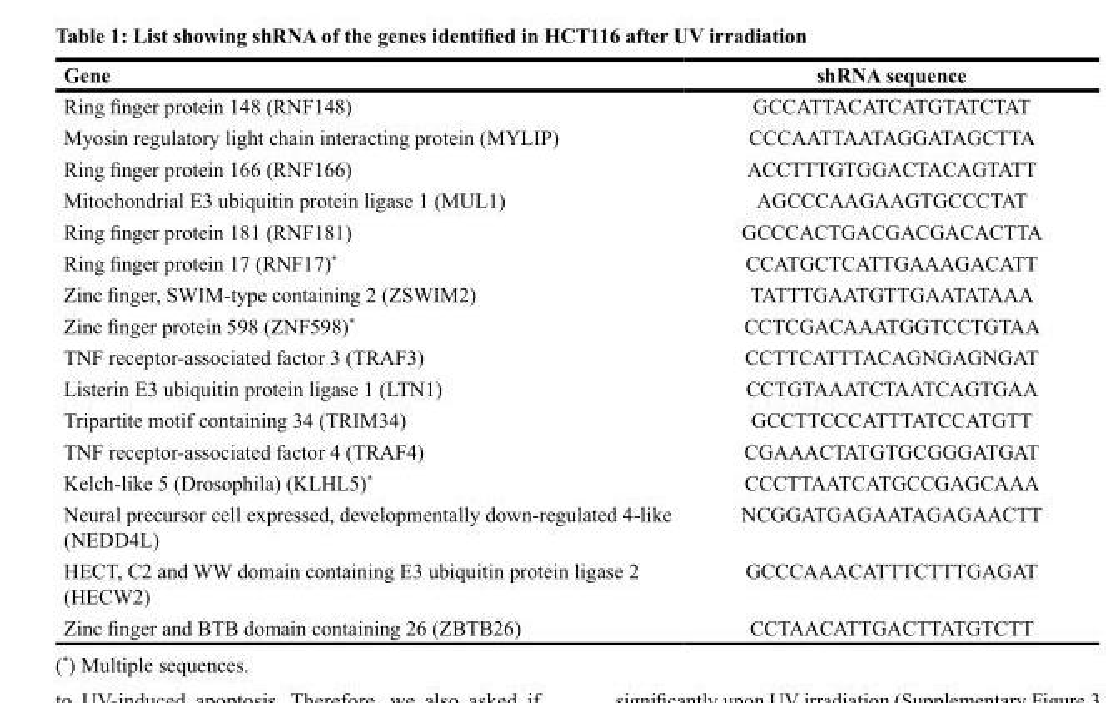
<table><thead><tr><td>Gene</td><td>shRNA sequence</td></tr></thead><tbody><tr><td>Ring finger protein 148 (RNF148)</td><td>GCCATTACATCATGTATCTAT</td></tr><tr><td>Myosin regulatory light chain interacting protein (MYLIP)</td><td>CCCAATTAATAGGATAGCTTA</td></tr><tr><td>Ring finger protein 166 (RNF166)</td><td>ACCTTTGTGGACTACAGTATT</td></tr><tr><td>Mitochondrial E3 ubiquitin protein ligase 1 (MUL1)</td><td>AGCCCAAGAAGTGCCCTAT</td></tr><tr><td>Ring finger protein 181 (RNF181)</td><td>GCCCACTGACGACGACACTTA</td></tr><tr><td>Ring finger protein 17 (RNF17)*</td><td>CCATGCTCATTGAAAGACATT</td></tr><tr><td>Zinc finger, SWIM-type containing 2 (ZSWIM2)</td><td>TATTTGAATGTTGAATATAAA</td></tr><tr><td>Zinc finger protein 598 (ZNF598)*</td><td>CCTCGACAAATGGTCCTGTAA</td></tr><tr><td>TNF receptor-associated factor 3 (TRAF3)</td><td>CCTTCATTTACAGNGAGNGAT</td></tr><tr><td>Listerin E3 ubiquitin protein ligase 1 (LTN1)</td><td>CCTGTAAATCTAATCAGTGAA</td></tr><tr><td>Tripartite motif containing 34 (TRIM34)</td><td>GCCTTCCCATTTATCCATGTT</td></tr><tr><td>TNF receptor-associated factor 4 (TRAF4)</td><td>CGAAACTATGTGCGGGATGAT</td></tr><tr><td>Kelch-like 5 (Drosophila) (KLHL5)*</td><td>CCCTTAATCATGCCGAGCAAA</td></tr><tr><td>Neural precursor cell expressed, developmentally down-regulated 4-like (NEDD4L)</td><td>NCGGATGAGAATAGAGAACTT</td></tr><tr><td>HECT, C2 and WW domain containing E3 ubiquitin protein ligase 2 (HECW2)</td><td>GCCCAAACATTTCTTTGAGAT</td></tr><tr><td>Zinc finger and BTB domain containing 26 (ZBTB26)</td><td>CCTAACATTGACTTATGTCTT</td></tr></tbody></table>